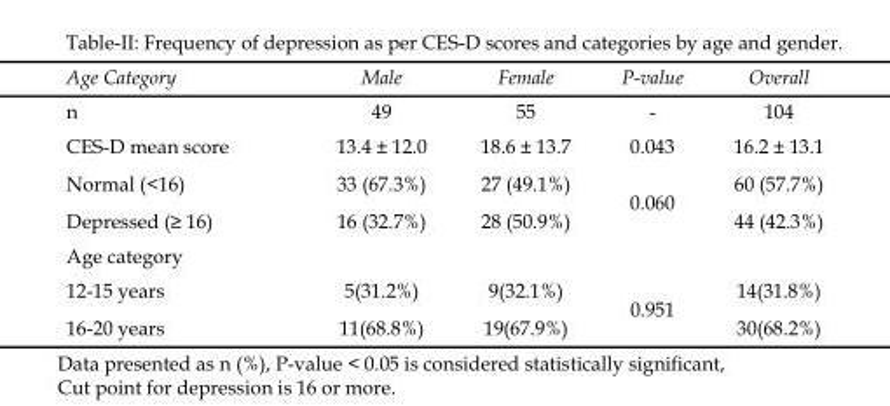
<table><thead><tr><td>Age Category</td><td>Male</td><td>Female</td><td>P-value</td><td>Overall</td></tr></thead><tbody><tr><td>n</td><td>49</td><td>55</td><td>-</td><td>104</td></tr><tr><td>CES-D mean score</td><td>13.4 ± 12.0</td><td>18.6 ± 13.7</td><td>0.043</td><td>16.2 ± 13.1</td></tr><tr><td>Normal (&lt;16)</td><td>33 (67.3%)</td><td>27 (49.1%)</td><td rowspan="2">0.060</td><td>60 (57.7%)</td></tr><tr><td>Depressed (≥ 16)</td><td>16 (32.7%)</td><td>28 (50.9%)</td><td>44 (42.3%)</td></tr><tr><td colspan="5">Age category</td></tr><tr><td>12-15 years</td><td>5(31.2%)</td><td>9(32.1%)</td><td rowspan="2">0.951</td><td>14(31.8%)</td></tr><tr><td>16-20 years</td><td>11(68.8%)</td><td>19(67.9%)</td><td>30(68.2%)</td></tr></tbody></table>